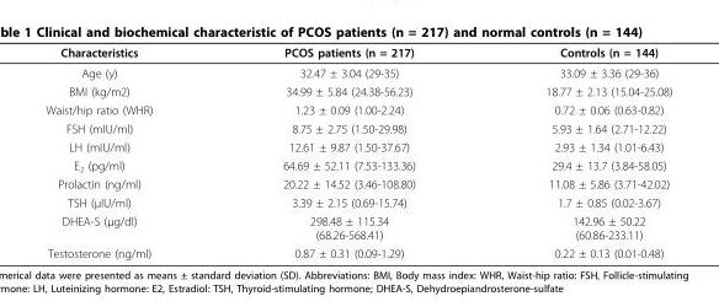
<table><thead><tr><td>Characteristics</td><td>PCOS patients (n = 217)</td><td>Controls (n = 144)</td></tr></thead><tbody><tr><td>Age (y)</td><td>32.47 ± 3.04 (29-35)</td><td>33.09 ± 3.36 (29-36)</td></tr><tr><td>BMI (kg/m2)</td><td>34.99 ± 5.84 (24.38-56.23)</td><td>18.77 ± 2.13 (15.04-25.08)</td></tr><tr><td>Waist/hip ratio (WHR)</td><td>1.23 ± 0.09 (1.00-2.24)</td><td>0.72 ± 0.06 (0.63-0.82)</td></tr><tr><td>FSH (mIU/ml)</td><td>8.75 ± 2.75 (1.50-29.98)</td><td>5.93 ± 1.64 (2.71-12.22)</td></tr><tr><td>LH (mIU/ml)</td><td>12.61 ± 9.87 (1.50-37.67)</td><td>2.93 ± 1.34 (1.01-6.43)</td></tr><tr><td>E<sub>2</sub> (pg/ml)</td><td>64.69 ± 52.11 (7.53-133.36)</td><td>29.4 ± 13.7 (3.84-58.05)</td></tr><tr><td>Prolactin (ng/ml)</td><td>20.22 ± 14.52 (3.46-108.80)</td><td>11.08 ± 5.86 (3.71-42.02)</td></tr><tr><td>TSH (μIU/ml)</td><td>3.39 ± 2.15 (0.69-15.74)</td><td>1.7 ± 0.85 (0.02-3.67)</td></tr><tr><td>DHEA-S (μg/dl)</td><td>298.48 ± 115.34 (68.26-568.41)</td><td>142.96 ± 50.22 (60.86-233.11)</td></tr><tr><td>Testosterone (ng/ml)</td><td>0.87 ± 0.31 (0.09-1.29)</td><td>0.22 ± 0.13 (0.01-0.48)</td></tr></tbody></table>